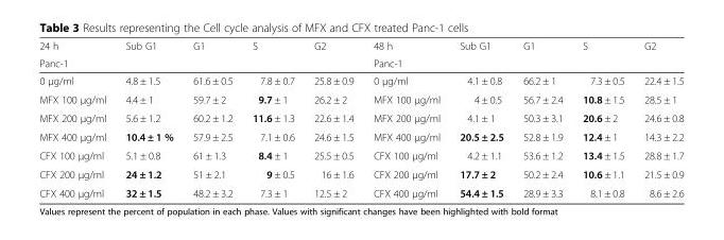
<table><thead><tr><td rowspan="2">24 h Panc-1</td><td rowspan="2">Sub G1</td><td rowspan="2">G1</td><td rowspan="2">S</td><td rowspan="2">G2</td><td rowspan="2">48 h Panc-1</td><td rowspan="2">Sub G1</td><td rowspan="2">G1</td><td rowspan="2">S</td><td rowspan="2">G2</td></tr><tr></tr></thead><tbody><tr><td>0 μg/ml</td><td>4.8 ± 1.5</td><td>61.6 ± 0.5</td><td>7.8 ± 0.7</td><td>25.8 ± 0.9</td><td>0 μg/ml</td><td>4.1 ± 0.8</td><td>66.2 ± 1</td><td>7.3 ± 0.5</td><td>22.4 ± 1.5</td></tr><tr><td>MFX 100 μg/ml</td><td>4.4 ± 1</td><td>59.7 ± 2</td><td>9.7 ± 1</td><td>26.2 ± 2</td><td>MFX 100 μg/ml</td><td>4 ± 0.5</td><td>56.7 ± 2.4</td><td>10.8 ± 1.5</td><td>28.5 ± 1</td></tr><tr><td>MFX 200 μg/ml</td><td>5.6 ± 1.2</td><td>60.2 ± 1.2</td><td>11.6 ± 1.3</td><td>22.6 ± 1.4</td><td>MFX 200 μg/ml</td><td>4.1 ± 1</td><td>50.3 ± 3.1</td><td>20.6 ± 2</td><td>24.6 ± 0.8</td></tr><tr><td>MFX 400 μg/ml</td><td>10.4 ± 1 %</td><td>57.9 ± 2.5</td><td>7.1 ± 0.6</td><td>24.6 ± 1.5</td><td>MFX 400 μg/ml</td><td>20.5 ± 2.5</td><td>52.8 ± 1.9</td><td>12.4 ± 1</td><td>14.3 ± 2.2</td></tr><tr><td>CFX 100 μg/ml</td><td>5.1 ± 0.8</td><td>61 ± 1.3</td><td>8.4 ± 1</td><td>25.5 ± 0.5</td><td>CFX 100 μg/ml</td><td>4.2 ± 1.1</td><td>53.6 ± 1.2</td><td>13.4 ± 1.5</td><td>28.8 ± 1.7</td></tr><tr><td>CFX 200 μg/ml</td><td>24 ± 1.2</td><td>51 ± 2.1</td><td>9 ± 0.5</td><td>16 ± 1.6</td><td>CFX 200 μg/ml</td><td>17.7 ± 2</td><td>50.2 ± 2.4</td><td>10.6 ± 1.1</td><td>21.5 ± 0.9</td></tr><tr><td>CFX 400 μg/ml</td><td>32 ± 1.5</td><td>48.2 ± 3.2</td><td>7.3 ± 1</td><td>12.5 ± 2</td><td>CFX 400 μg/ml</td><td>54.4 ± 1.5</td><td>28.9 ± 3.3</td><td>8.1 ± 0.8</td><td>8.6 ± 2.6</td></tr></tbody></table>